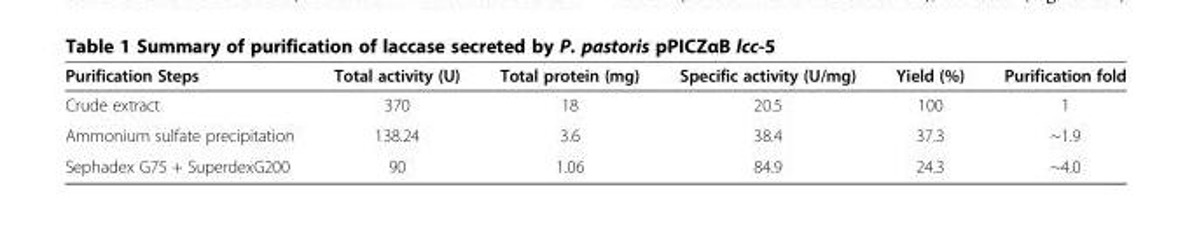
<table><thead><tr><td>Purification Steps</td><td>Total activity (U)</td><td>Total protein (mg)</td><td>Specific activity (U/mg)</td><td>Yield (%)</td><td>Purification fold</td></tr></thead><tbody><tr><td>Crude extract</td><td>370</td><td>18</td><td>20.5</td><td>100</td><td>1</td></tr><tr><td>Ammonium sulfate precipitation</td><td>138.24</td><td>3.6</td><td>38.4</td><td>37.3</td><td>~1.9</td></tr><tr><td>Sephadex G75 + SuperdexG200</td><td>90</td><td>1.06</td><td>84.9</td><td>24.3</td><td>~4.0</td></tr></tbody></table>